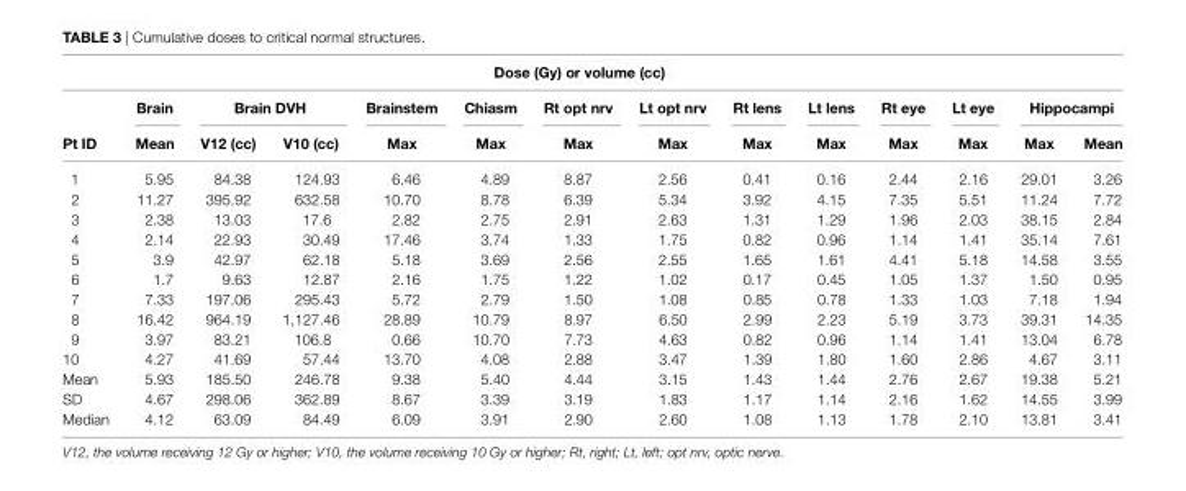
<table><thead><tr><td colspan="14">Dose (gy) or volume (cc)</td></tr><tr><td rowspan="2">Pt iD</td><td rowspan="2">Brain Mean</td><td colspan="2">Brain DVh</td><td rowspan="2">Brainstem Max</td><td rowspan="2">chiasm Max</td><td rowspan="2">rt opt nrv Max</td><td rowspan="2">lt opt nrv Max</td><td rowspan="2">rt lens Max</td><td rowspan="2">lt lens Max</td><td rowspan="2">rt eye Max</td><td rowspan="2">lt eye Max</td><td colspan="2">hippocampi</td></tr><tr><td>V12 (cc)</td><td>V10 (cc)</td><td>Max</td><td>Mean</td></tr></thead><tbody><tr><td>1</td><td>5.95</td><td>84.38</td><td>124.93</td><td>6.46</td><td>4.89</td><td>8.87</td><td>2.56</td><td>0.41</td><td>0.16</td><td>2.44</td><td>2.16</td><td>29.01</td><td>3.26</td></tr><tr><td>2</td><td>11.27</td><td>395.92</td><td>632.58</td><td>10.70</td><td>8.78</td><td>6.39</td><td>5.34</td><td>3.92</td><td>4.15</td><td>7.35</td><td>5.51</td><td>11.24</td><td>7.72</td></tr><tr><td>3</td><td>2.38</td><td>13.03</td><td>17.6</td><td>2.82</td><td>2.75</td><td>2.91</td><td>2.63</td><td>1.31</td><td>1.29</td><td>1.96</td><td>2.03</td><td>38.15</td><td>2.84</td></tr><tr><td>4</td><td>2.14</td><td>22.93</td><td>30.49</td><td>17.46</td><td>3.74</td><td>1.33</td><td>1.75</td><td>0.82</td><td>0.96</td><td>1.14</td><td>1.41</td><td>35.14</td><td>7.61</td></tr><tr><td>5</td><td>3.9</td><td>42.97</td><td>62.18</td><td>5.18</td><td>3.69</td><td>2.56</td><td>2.55</td><td>1.65</td><td>1.61</td><td>4.41</td><td>5.18</td><td>14.58</td><td>3.55</td></tr><tr><td>6</td><td>1.7</td><td>9.63</td><td>12.87</td><td>2.16</td><td>1.75</td><td>1.22</td><td>1.02</td><td>0.17</td><td>0.45</td><td>1.05</td><td>1.37</td><td>1.50</td><td>0.95</td></tr><tr><td>7</td><td>7.33</td><td>197.06</td><td>295.43</td><td>5.72</td><td>2.79</td><td>1.50</td><td>1.08</td><td>0.85</td><td>0.78</td><td>1.33</td><td>1.03</td><td>7.18</td><td>1.94</td></tr><tr><td>8</td><td>16.42</td><td>964.19</td><td>1,127.46</td><td>28.89</td><td>10.79</td><td>8.97</td><td>6.50</td><td>2.99</td><td>2.23</td><td>5.19</td><td>3.73</td><td>39.31</td><td>14.35</td></tr><tr><td>9</td><td>3.97</td><td>83.21</td><td>106.8</td><td>0.66</td><td>10.70</td><td>7.73</td><td>4.63</td><td>0.82</td><td>0.96</td><td>1.14</td><td>1.41</td><td>13.04</td><td>6.78</td></tr><tr><td>10</td><td>4.27</td><td>41.69</td><td>57.44</td><td>13.70</td><td>4.08</td><td>2.88</td><td>3.47</td><td>1.39</td><td>1.80</td><td>1.60</td><td>2.86</td><td>4.67</td><td>3.11</td></tr><tr><td>Mean</td><td>5.93</td><td>185.50</td><td>246.78</td><td>9.38</td><td>5.40</td><td>4.44</td><td>3.15</td><td>1.43</td><td>1.44</td><td>2.76</td><td>2.67</td><td>19.38</td><td>5.21</td></tr><tr><td>SD</td><td>4.67</td><td>298.06</td><td>362.89</td><td>8.67</td><td>3.39</td><td>3.19</td><td>1.83</td><td>1.17</td><td>1.14</td><td>2.16</td><td>1.62</td><td>14.55</td><td>3.99</td></tr><tr><td>Median</td><td>4.12</td><td>63.09</td><td>84.49</td><td>6.09</td><td>3.91</td><td>2.90</td><td>2.60</td><td>1.08</td><td>1.13</td><td>1.78</td><td>2.10</td><td>13.81</td><td>3.41</td></tr></tbody></table>